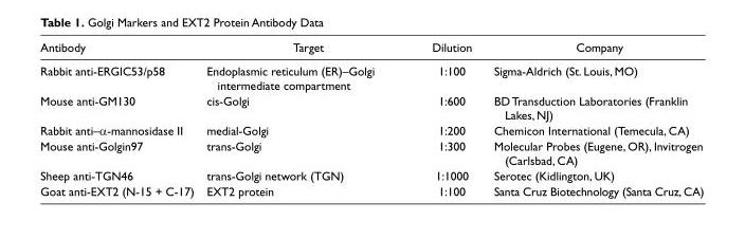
<table><thead><tr><td>Antibody</td><td>Target</td><td>Dilution</td><td>Company</td></tr></thead><tbody><tr><td>Rabbit anti-ERGIC53/p58</td><td>Endoplasmic reticulum (ER)–Golgi intermediate compartment</td><td>1:100</td><td>Sigma-Aldrich (St. Louis, MO)</td></tr><tr><td>Mouse anti-GM130</td><td>cis-Golgi</td><td>1:600</td><td>BD Transduction Laboratories (Franklin Lakes, NJ)</td></tr><tr><td>Rabbit anti–α-mannosidase II</td><td>medial-Golgi</td><td>1:200</td><td>Chemicon International (Temecula, CA)</td></tr><tr><td>Mouse anti-Golgin97</td><td>trans-Golgi</td><td>1:300</td><td>Molecular Probes (Eugene, OR), Invitrogen (Carlsbad, CA)</td></tr><tr><td>Sheep anti-TGN46</td><td>trans-Golgi network (TGN)</td><td>1:1000</td><td>Serotec (Kidlington, UK)</td></tr><tr><td>Goat anti-EXT2 (N-15 + C-17)</td><td>EXT2 protein</td><td>1:100</td><td>Santa Cruz Biotechnology (Santa Cruz, CA)</td></tr></tbody></table>